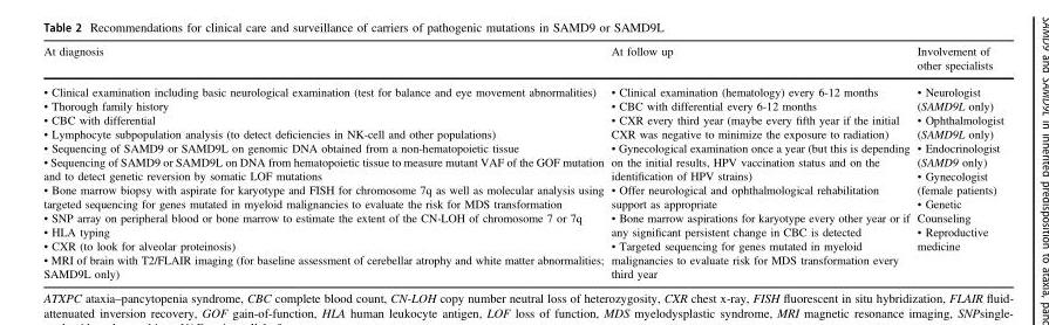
<table><thead><tr><td>At diagnosis</td><td>At follow up</td><td>Involvement of other specialists</td></tr></thead><tbody><tr><td>• Clinical examination including basic neurological examination (test for balance and eye movement abnormalities) • Thorough family history • CBC with differential • Lymphocyte subpopulation analysis (to detect deficiencies in NK-cell and other populations) • Sequencing of SAMD9 or SAMD9L on genomic DNA obtained from a non-hematopoietic tissue • Sequencing of SAMD9 or SAMD9L on DNA from hematopoietic tissue to measure mutant VAF of the GOF mutation and to detect genetic reversion by somatic LOF mutations • Bone marrow biopsy with aspirate for karyotype and FISH for chromosome 7q as well as molecular analysis using targeted sequencing for genes mutated in myeloid malignancies to evaluate the risk for MDS transformation • SNP array on peripheral blood or bone marrow to estimate the extent of the CN-LOH of chromosome 7 or 7q • HLA typing • CXR (to look for alveolar proteinosis) • MRI of brain with T2/FLAIR imaging (for baseline assessment of cerebellar atrophy and white matter abnormalities; SAMD9L only)</td><td>• Clinical examination (hematology) every 6-12 months • CBC with differential every 6-12 months • CXR every third year (maybe every fifth year if the initial CXR was negative to minimize the exposure to radiation) • Gynecological examination once a year (but this is depending on the initial results, HPV vaccination status and on the identification of HPV strains) • Offer neurological and ophthalmological rehabilitation support as appropriate • Bone marrow aspirations for karyotype every other year or if any significant persistent change in CBC is detected • Targeted sequencing for genes mutated in myeloid malignancies to evaluate risk for MDS transformation every third year</td><td>• Neurologist (SAMD9L only) • Ophthalmologist (SAMD9L only) • Endocrinologist (SAMD9 only) • Gynecologist (female patients) • Genetic Counseling • Reproductive medicine</td></tr></tbody></table>